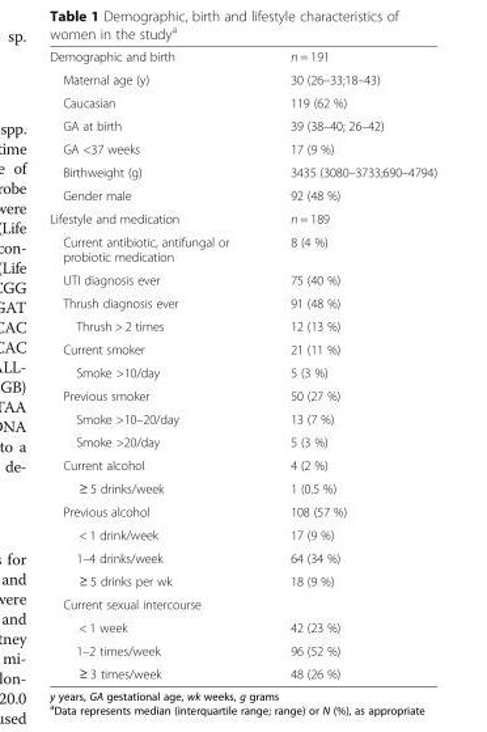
<table><tbody><tr><td>Demographic and birth</td><td>n = 191</td></tr><tr><td>Maternal age (y)</td><td>30 (26–33;18–43)</td></tr><tr><td>Caucasian</td><td>119 (62 %)</td></tr><tr><td>GA at birth</td><td>39 (38–40; 26–42)</td></tr><tr><td>GA &lt;37 weeks</td><td>17 (9 %)</td></tr><tr><td>Birthweight (g)</td><td>3435 (3080–3733;690–4794)</td></tr><tr><td>Gender male</td><td>92 (48 %)</td></tr><tr><td>Lifestyle and medication</td><td>n = 189</td></tr><tr><td>Current antibiotic, antifungal or probiotic medication</td><td>8 (4 %)</td></tr><tr><td>UTI diagnosis ever</td><td>75 (40 %)</td></tr><tr><td>Thrush diagnosis ever</td><td>91 (48 %)</td></tr><tr><td>Thrush &gt; 2 times</td><td>12 (13 %)</td></tr><tr><td>Current smoker</td><td>21 (11 %)</td></tr><tr><td>Smoke &gt;10/day</td><td>5 (3 %)</td></tr><tr><td>Previous smoker</td><td>50 (27 %)</td></tr><tr><td>Smoke &gt;10–20/day</td><td>13 (7 %)</td></tr><tr><td>Smoke &gt;20/day</td><td>5 (3 %)</td></tr><tr><td>Current alcohol</td><td>4 (2 %)</td></tr><tr><td>≥ 5 drinks/week</td><td>1 (0.5 %)</td></tr><tr><td>Previous alcohol</td><td>108 (57 %)</td></tr><tr><td>&lt; 1 drink/week</td><td>17 (9 %)</td></tr><tr><td>1–4 drinks/week</td><td>64 (34 %)</td></tr><tr><td>≥ 5 drinks per wk</td><td>18 (9 %)</td></tr><tr><td colspan="2">Current sexual intercourse</td></tr><tr><td>&lt; 1 week</td><td>42 (23 %)</td></tr><tr><td>1–2 times/week</td><td>96 (52 %)</td></tr><tr><td>≥ 3 times/week</td><td>48 (26 %)</td></tr></tbody></table>